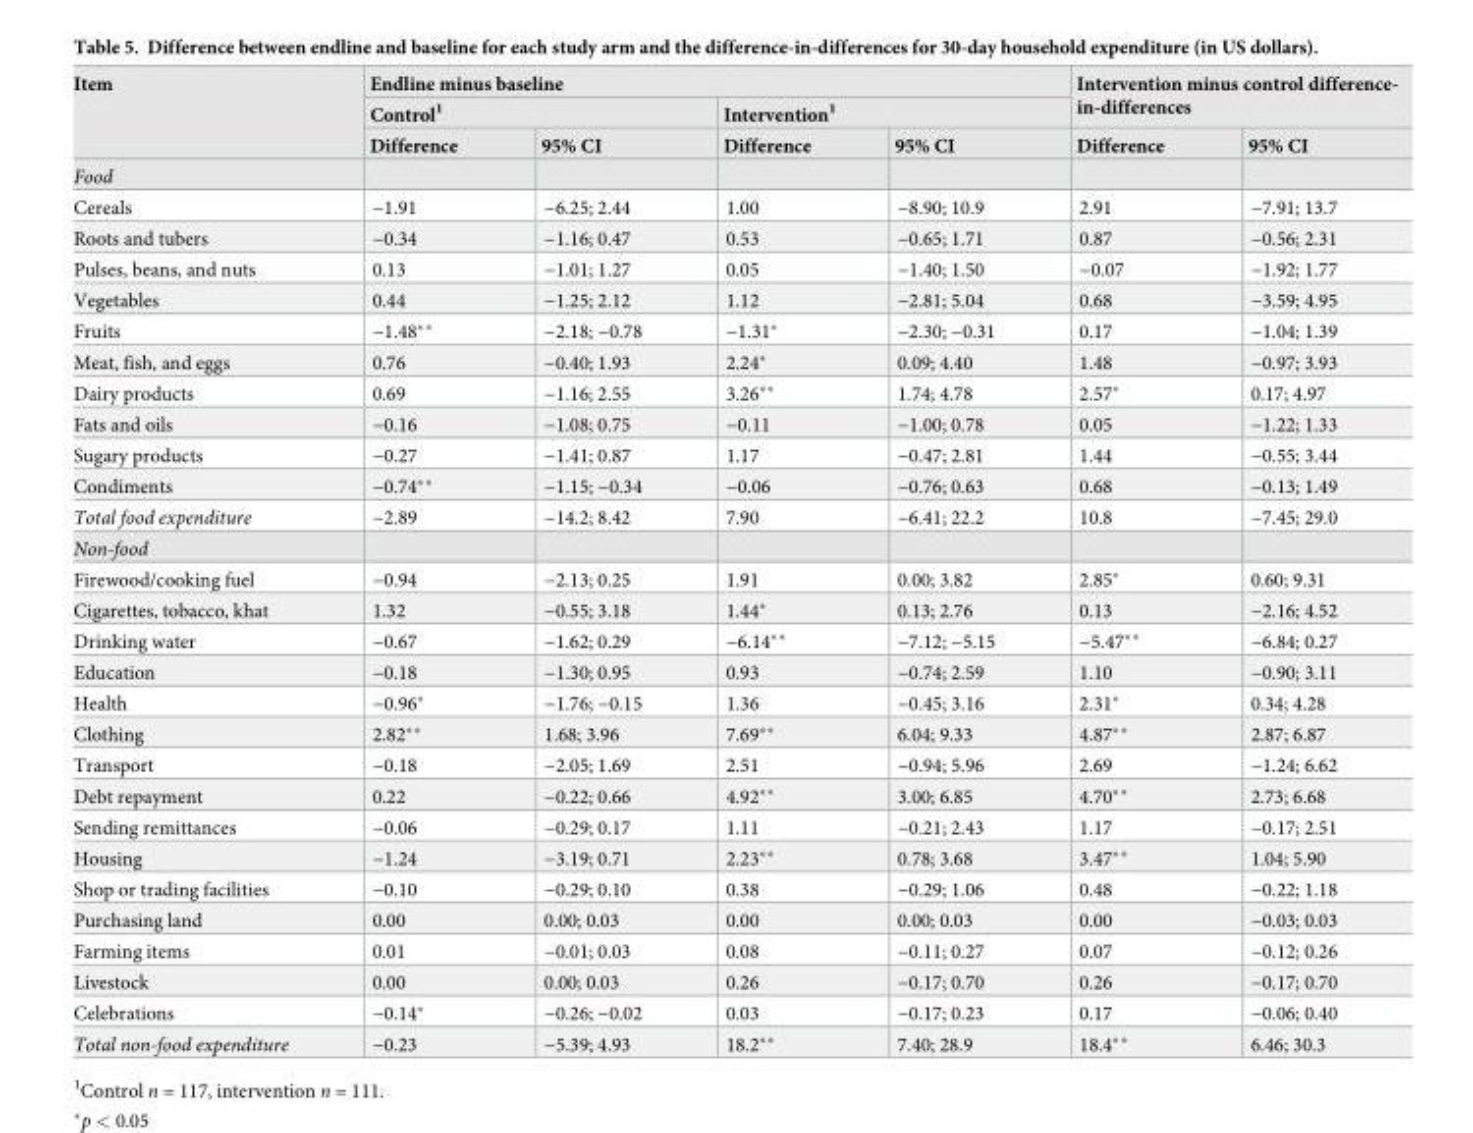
<table><thead><tr><td rowspan="3">Item</td><td colspan="4">Endline minus baseline</td><td rowspan="2" colspan="2">Intervention minus control difference- in-differences</td></tr><tr><td colspan="2">Control<sup>1</sup></td><td colspan="2">Intervention<sup>1</sup></td></tr><tr><td>Difference</td><td>95% CI</td><td>Difference</td><td>95% CI</td><td>Difference</td><td>95% CI</td></tr></thead><tbody><tr><td colspan="7">Food</td></tr><tr><td>Cereals</td><td>−1.91</td><td>−6.25; 2.44</td><td>1.00</td><td>−8.90; 10.9</td><td>2.91</td><td>−7.91; 13.7</td></tr><tr><td>Roots and tubers</td><td>−0.34</td><td>−1.16; 0.47</td><td>0.53</td><td>−0.65; 1.71</td><td>0.87</td><td>−0.56; 2.31</td></tr><tr><td>Pulses, beans, and nuts</td><td>0.13</td><td>−1.01; 1.27</td><td>0.05</td><td>−1.40; 1.50</td><td>−0.07</td><td>−1.92; 1.77</td></tr><tr><td>Vegetables</td><td>0.44</td><td>−1.25; 2.12</td><td>1.12</td><td>−2.81; 5.04</td><td>0.68</td><td>−3.59; 4.95</td></tr><tr><td>Fruits</td><td>−1.48**</td><td>−2.18; −0.78</td><td>−1.31*</td><td>−2.30; −0.31</td><td>0.17</td><td>−1.04; 1.39</td></tr><tr><td>Meat, fish, and eggs</td><td>0.76</td><td>−0.40; 1.93</td><td>2.24*</td><td>0.09; 4.40</td><td>1.48</td><td>−0.97; 3.93</td></tr><tr><td>Dairy products</td><td>0.69</td><td>−1.16; 2.55</td><td>3.26**</td><td>1.74; 4.78</td><td>2.57*</td><td>0.17; 4.97</td></tr><tr><td>Fats and oils</td><td>−0.16</td><td>−1.08; 0.75</td><td>−0.11</td><td>−1.00; 0.78</td><td>0.05</td><td>−1.22; 1.33</td></tr><tr><td>Sugary products</td><td>−0.27</td><td>−1.41; 0.87</td><td>1.17</td><td>−0.47; 2.81</td><td>1.44</td><td>−0.55; 3.44</td></tr><tr><td>Condiments</td><td>−0.74**</td><td>−1.15; −0.34</td><td>−0.06</td><td>−0.76; 0.63</td><td>0.68</td><td>−0.13; 1.49</td></tr><tr><td>Total food expenditure</td><td>−2.89</td><td>−14.2; 8.42</td><td>7.90</td><td>−6.41; 22.2</td><td>10.8</td><td>−7.45; 29.0</td></tr><tr><td colspan="7">Non-food</td></tr><tr><td>Firewood/cooking fuel</td><td>−0.94</td><td>−2.13; 0.25</td><td>1.91</td><td>0.00; 3.82</td><td>2.85*</td><td>0.60; 9.31</td></tr><tr><td>Cigarettes, tobacco, khat</td><td>1.32</td><td>−0.55; 3.18</td><td>1.44*</td><td>0.13; 2.76</td><td>0.13</td><td>−2.16; 4.52</td></tr><tr><td>Drinking water</td><td>−0.67</td><td>−1.62; 0.29</td><td>−6.14**</td><td>−7.12; −5.15</td><td>−5.47**</td><td>−6.84; 0.27</td></tr><tr><td>Education</td><td>−0.18</td><td>−1.30; 0.95</td><td>0.93</td><td>−0.74; 2.59</td><td>1.10</td><td>−0.90; 3.11</td></tr><tr><td>Health</td><td>−0.96*</td><td>−1.76; −0.15</td><td>1.36</td><td>−0.45; 3.16</td><td>2.31*</td><td>0.34; 4.28</td></tr><tr><td>Clothing</td><td>2.82**</td><td>1.68; 3.96</td><td>7.69**</td><td>6.04; 9.33</td><td>4.87**</td><td>2.87; 6.87</td></tr><tr><td>Transport</td><td>−0.18</td><td>−2.05; 1.69</td><td>2.51</td><td>−0.94; 5.96</td><td>2.69</td><td>−1.24; 6.62</td></tr><tr><td>Debt repayment</td><td>0.22</td><td>−0.22; 0.66</td><td>4.92**</td><td>3.00; 6.85</td><td>4.70**</td><td>2.73; 6.68</td></tr><tr><td>Sending remittances</td><td>−0.06</td><td>−0.29; 0.17</td><td>1.11</td><td>−0.21; 2.43</td><td>1.17</td><td>−0.17; 2.51</td></tr><tr><td>Housing</td><td>−1.24</td><td>−3.19; 0.71</td><td>2.23**</td><td>0.78; 3.68</td><td>3.47**</td><td>1.04; 5.90</td></tr><tr><td>Shop or trading facilities</td><td>−0.10</td><td>−0.29; 0.10</td><td>0.38</td><td>−0.29; 1.06</td><td>0.48</td><td>−0.22; 1.18</td></tr><tr><td>Purchasing land</td><td>0.00</td><td>0.00; 0.03</td><td>0.00</td><td>0.00; 0.03</td><td>0.00</td><td>−0.03; 0.03</td></tr><tr><td>Farming items</td><td>0.01</td><td>−0.01; 0.03</td><td>0.08</td><td>−0.11; 0.27</td><td>0.07</td><td>−0.12; 0.26</td></tr><tr><td>Livestock</td><td>0.00</td><td>0.00; 0.03</td><td>0.26</td><td>−0.17; 0.70</td><td>0.26</td><td>−0.17; 0.70</td></tr><tr><td>Celebrations</td><td>−0.14*</td><td>−0.26; −0.02</td><td>0.03</td><td>−0.17; 0.23</td><td>0.17</td><td>−0.06; 0.40</td></tr><tr><td>Total non-food expenditure</td><td>−0.23</td><td>−5.39; 4.93</td><td>18.2**</td><td>7.40; 28.9</td><td>18.4**</td><td>6.46; 30.3</td></tr></tbody></table>